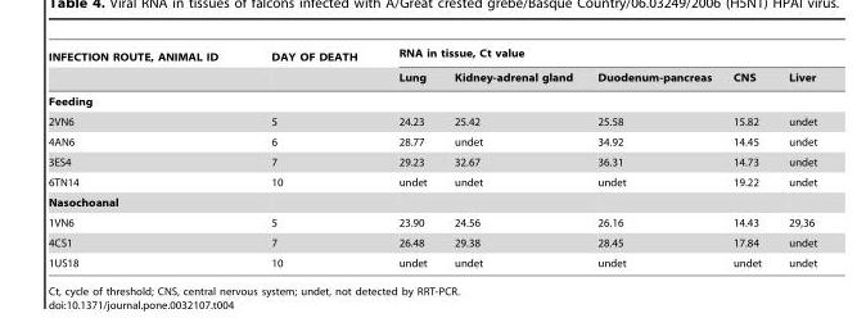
<table><thead><tr><td rowspan="2">INFECTION ROUTE, ANIMAL ID</td><td rowspan="2">DAY OF DEATH</td><td colspan="5">RNA in tissue, Ct value</td></tr><tr><td>Lung</td><td>Kidney-adrenal gland</td><td>Duodenum-pancreas</td><td>CNS</td><td>Liver</td></tr></thead><tbody><tr><td colspan="7">Feeding</td></tr><tr><td>2VN6</td><td>5</td><td>24.23</td><td>25.42</td><td>25.58</td><td>15.82</td><td>undet</td></tr><tr><td>4AN6</td><td>6</td><td>28.77</td><td>undet</td><td>34.92</td><td>14.45</td><td>undet</td></tr><tr><td>3ES4</td><td>7</td><td>29.23</td><td>32.67</td><td>36.31</td><td>14.73</td><td>undet</td></tr><tr><td>6TN14</td><td>10</td><td>undet</td><td>undet</td><td>undet</td><td>19.22</td><td>undet</td></tr><tr><td colspan="7">Nasochoanal</td></tr><tr><td>1VN6</td><td>5</td><td>23.90</td><td>24.56</td><td>26.16</td><td>14.43</td><td>29,36</td></tr><tr><td>4CS1</td><td>7</td><td>26.48</td><td>29.38</td><td>28.45</td><td>17.84</td><td>undet</td></tr><tr><td>1US18</td><td>10</td><td>undet</td><td>undet</td><td>undet</td><td>undet</td><td>undet</td></tr></tbody></table>